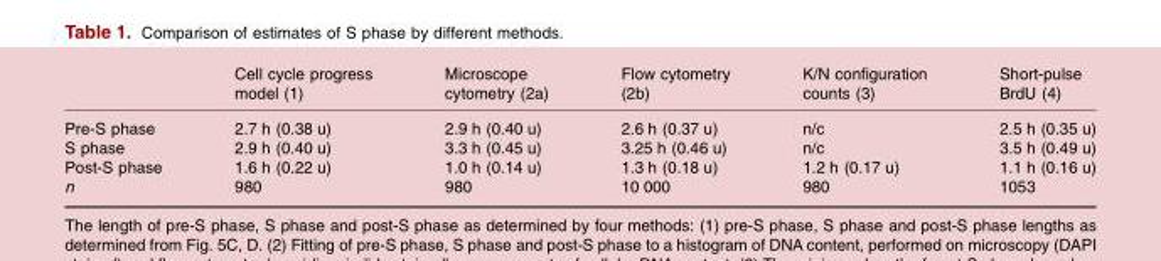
<table><thead><tr><td></td><td>Cell cycle progress model (1)</td><td>Microscope cytometry (2a)</td><td>Flow cytometry (2b)</td><td>K/N configuration counts (3)</td><td>Short-pulse BrdU (4)</td></tr></thead><tbody><tr><td>Pre-S phase</td><td>2.7 h (0.38 u)</td><td>2.9 h (0.40 u)</td><td>2.6 h (0.37 u)</td><td>n/c</td><td>2.5 h (0.35 u)</td></tr><tr><td>S phase</td><td>2.9 h (0.40 u)</td><td>3.3 h (0.45 u)</td><td>3.25 h (0.46 u)</td><td>n/c</td><td>3.5 h (0.49 u)</td></tr><tr><td>Post-S phase</td><td>1.6 h (0.22 u)</td><td>1.0 h (0.14 u)</td><td>1.3 h (0.18 u)</td><td>1.2 h (0.17 u)</td><td>1.1 h (0.16 u)</td></tr><tr><td>n</td><td>980</td><td>980</td><td>10 000</td><td>980</td><td>1053</td></tr></tbody></table>